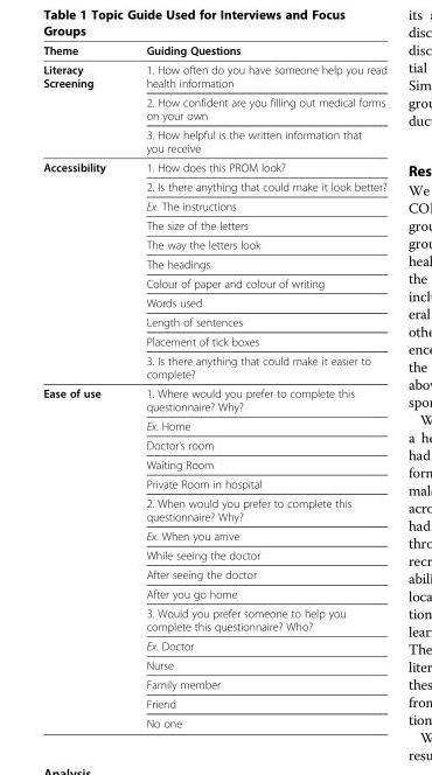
<table><thead><tr><td>Theme</td><td>Guiding Questions</td></tr></thead><tbody><tr><td rowspan="3">Literacy Screening</td><td>1. How often do you have someone help you read health information</td></tr><tr><td>2. How confident are you filling out medical forms on your own</td></tr><tr><td>3. How helpful is the written information that you receive</td></tr><tr><td rowspan="11">Accessibility</td><td>1. How does this PROM look?</td></tr><tr><td>2. Is there anything that could make it look better?</td></tr><tr><td>Ex. The instructions</td></tr><tr><td>The size of the letters</td></tr><tr><td>The way the letters look</td></tr><tr><td>The headings</td></tr><tr><td>Colour of paper and colour of writing</td></tr><tr><td>Words used</td></tr><tr><td>Length of sentences</td></tr><tr><td>Placement of tick boxes</td></tr><tr><td>3. Is there anything that could make it easier to complete?</td></tr><tr><td rowspan="16">Ease of use</td><td>1. Where would you prefer to complete this questionnaire? Why?</td></tr><tr><td>Ex. Home</td></tr><tr><td>Doctor’s room</td></tr><tr><td>Waiting Room</td></tr><tr><td>Private Room in hospital</td></tr><tr><td>2. When would you prefer to complete this questionnaire? Why?</td></tr><tr><td>Ex. When you arrive</td></tr><tr><td>While seeing the doctor</td></tr><tr><td>After seeing the doctor</td></tr><tr><td>After you go home</td></tr><tr><td>3. Would you prefer someone to help you complete this questionnaire? Who?</td></tr><tr><td>Ex. Doctor</td></tr><tr><td>Nurse</td></tr><tr><td>Family member</td></tr><tr><td>Friend</td></tr><tr><td>No one</td></tr></tbody></table>